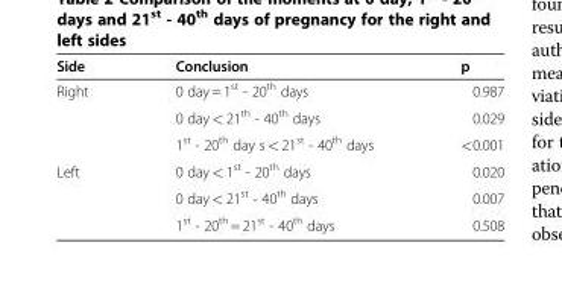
<table><thead><tr><td>Side</td><td>Conclusion</td><td>p</td></tr></thead><tbody><tr><td rowspan="3">Right</td><td>0 day = 1<sup>st</sup> - 20<sup>th</sup> days</td><td>0.987</td></tr><tr><td>0 day &lt; 21<sup>th</sup> - 40<sup>th</sup> days</td><td>0.029</td></tr><tr><td>1<sup>st</sup> - 20<sup>th</sup> day s &lt; 21<sup>st</sup> - 40<sup>th</sup> days</td><td>&lt;0.001</td></tr><tr><td rowspan="3">Left</td><td>0 day &lt; 1<sup>st</sup> - 20<sup>th</sup> days</td><td>0.020</td></tr><tr><td>0 day &lt; 21<sup>st</sup> - 40<sup>th</sup> days</td><td>0.007</td></tr><tr><td>1<sup>st</sup> - 20<sup>th</sup> = 21<sup>st</sup> - 40<sup>th</sup> days</td><td>0.508</td></tr></tbody></table>